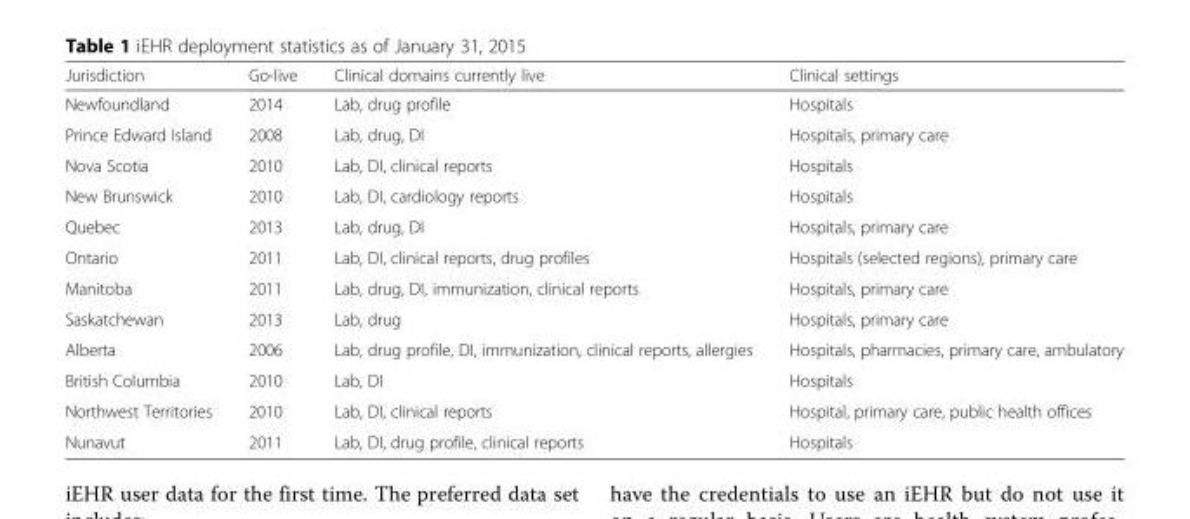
<table><thead><tr><td>Jurisdiction</td><td>Go-live</td><td>Clinical domains currently live</td><td>Clinical settings</td></tr></thead><tbody><tr><td>Newfoundland</td><td>2014</td><td>Lab, drug profile</td><td>Hospitals</td></tr><tr><td>Prince Edward Island</td><td>2008</td><td>Lab, drug, DI</td><td>Hospitals, primary care</td></tr><tr><td>Nova Scotia</td><td>2010</td><td>Lab, DI, clinical reports</td><td>Hospitals</td></tr><tr><td>New Brunswick</td><td>2010</td><td>Lab, DI, cardiology reports</td><td>Hospitals</td></tr><tr><td>Quebec</td><td>2013</td><td>Lab, drug, DI</td><td>Hospitals, primary care</td></tr><tr><td>Ontario</td><td>2011</td><td>Lab, DI, clinical reports, drug profiles</td><td>Hospitals (selected regions), primary care</td></tr><tr><td>Manitoba</td><td>2011</td><td>Lab, drug, DI, immunization, clinical reports</td><td>Hospitals, primary care</td></tr><tr><td>Saskatchewan</td><td>2013</td><td>Lab, drug</td><td>Hospitals, primary care</td></tr><tr><td>Alberta</td><td>2006</td><td>Lab, drug profile, DI, immunization, clinical reports, allergies</td><td>Hospitals, pharmacies, primary care, ambulatory</td></tr><tr><td>British Columbia</td><td>2010</td><td>Lab, DI</td><td>Hospitals</td></tr><tr><td>Northwest Territories</td><td>2010</td><td>Lab, DI, clinical reports</td><td>Hospital, primary care, public health offices</td></tr><tr><td>Nunavut</td><td>2011</td><td>Lab, DI, drug profile, clinical reports</td><td>Hospitals</td></tr></tbody></table>